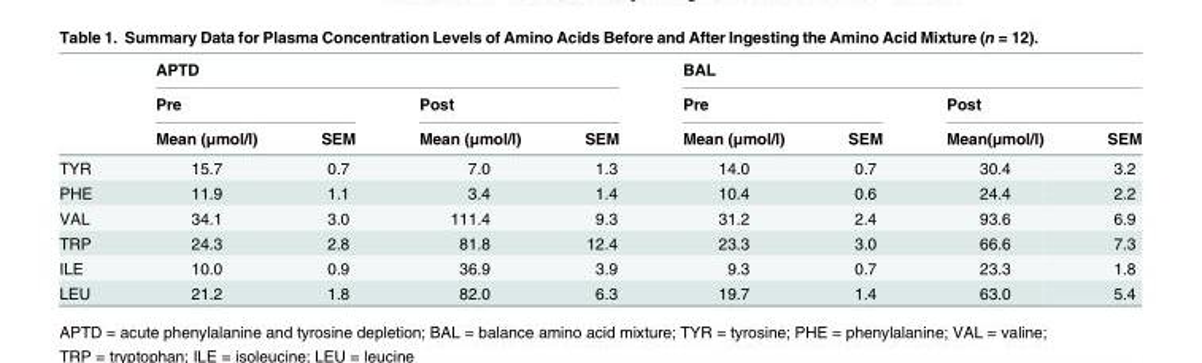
<table><thead><tr><td rowspan="3"></td><td colspan="4">APTD</td><td colspan="4">BAL</td></tr><tr><td colspan="2">Pre</td><td colspan="2">Post</td><td colspan="2">Pre</td><td colspan="2">Post</td></tr><tr><td>Mean (μmol/l)</td><td>SEM</td><td>Mean (μmol/l)</td><td>SEM</td><td>Mean (μmol/l)</td><td>SEM</td><td>Mean(μmol/l)</td><td>SEM</td></tr></thead><tbody><tr><td>TYR</td><td>15.7</td><td>0.7</td><td>7.0</td><td>1.3</td><td>14.0</td><td>0.7</td><td>30.4</td><td>3.2</td></tr><tr><td>PHE</td><td>11.9</td><td>1.1</td><td>3.4</td><td>1.4</td><td>10.4</td><td>0.6</td><td>24.4</td><td>2.2</td></tr><tr><td>VAL</td><td>34.1</td><td>3.0</td><td>111.4</td><td>9.3</td><td>31.2</td><td>2.4</td><td>93.6</td><td>6.9</td></tr><tr><td>TRP</td><td>24.3</td><td>2.8</td><td>81.8</td><td>12.4</td><td>23.3</td><td>3.0</td><td>66.6</td><td>7.3</td></tr><tr><td>ILE</td><td>10.0</td><td>0.9</td><td>36.9</td><td>3.9</td><td>9.3</td><td>0.7</td><td>23.3</td><td>1.8</td></tr><tr><td>LEU</td><td>21.2</td><td>1.8</td><td>82.0</td><td>6.3</td><td>19.7</td><td>1.4</td><td>63.0</td><td>5.4</td></tr></tbody></table>